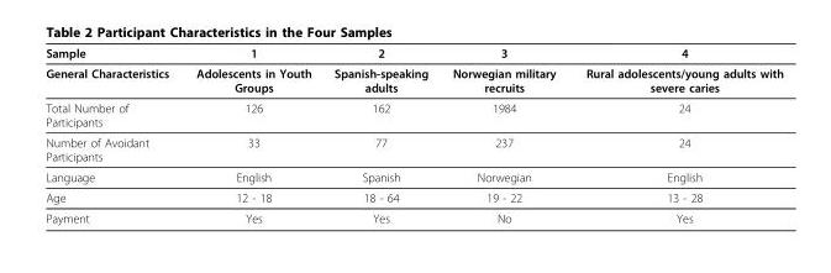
<table><thead><tr><td>Sample</td><td>1</td><td>2</td><td>3</td><td>4</td></tr></thead><tbody><tr><td>General Characteristics</td><td>Adolescents in Youth Groups</td><td>Spanish-speaking adults</td><td>Norwegian military recruits</td><td>Rural adolescents/young adults with severe caries</td></tr><tr><td>Total Number of Participants</td><td>126</td><td>162</td><td>1984</td><td>24</td></tr><tr><td>Number of Avoidant Participants</td><td>33</td><td>77</td><td>237</td><td>24</td></tr><tr><td>Language</td><td>English</td><td>Spanish</td><td>Norwegian</td><td>English</td></tr><tr><td>Age</td><td>12 - 18</td><td>18 - 64</td><td>19 - 22</td><td>13 - 28</td></tr><tr><td>Payment</td><td>Yes</td><td>Yes</td><td>No</td><td>Yes</td></tr></tbody></table>